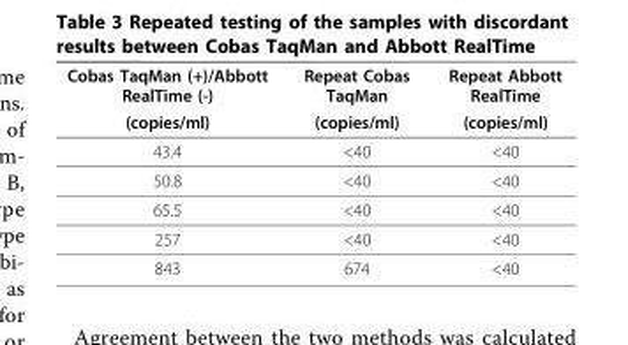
<table><thead><tr><td rowspan="2">Cobas TaqMan (+)/Abbott RealTime (-) (copies/ml)</td><td rowspan="2">Repeat Cobas TaqMan (copies/ml)</td><td rowspan="2">Repeat Abbott RealTime (copies/ml)</td></tr><tr></tr></thead><tbody><tr><td>43.4</td><td>&lt;40</td><td>&lt;40</td></tr><tr><td>50.8</td><td>&lt;40</td><td>&lt;40</td></tr><tr><td>65.5</td><td>&lt;40</td><td>&lt;40</td></tr><tr><td>257</td><td>&lt;40</td><td>&lt;40</td></tr><tr><td>843</td><td>674</td><td>&lt;40</td></tr></tbody></table>